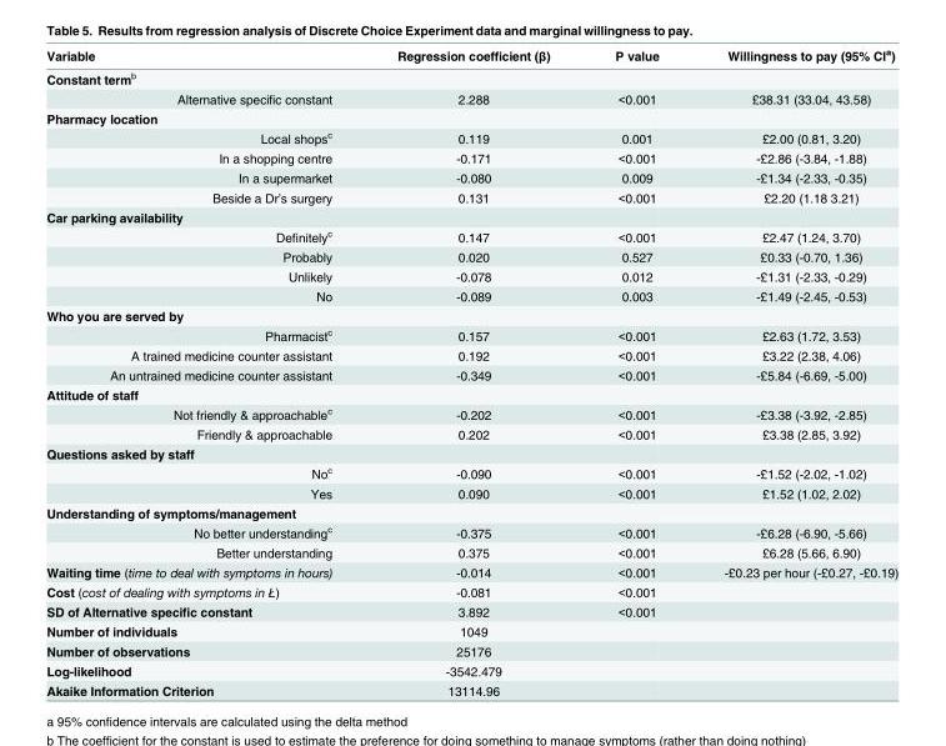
<table><thead><tr><td>Variable</td><td>Regression coefficient (β)</td><td>P value</td><td>Willingness to pay (95% CI<sup>a</sup>)</td></tr></thead><tbody><tr><td colspan="4">Constant term<sup>b</sup></td></tr><tr><td>Alternative specific constant</td><td>2.288</td><td>&lt;0.001</td><td>£38.31 (33.04, 43.58)</td></tr><tr><td colspan="4">Pharmacy location</td></tr><tr><td>Local shops<sup>c</sup></td><td>0.119</td><td>0.001</td><td>£2.00 (0.81, 3.20)</td></tr><tr><td>In a shopping centre</td><td>-0.171</td><td>&lt;0.001</td><td>-£2.86 (-3.84, -1.88)</td></tr><tr><td>In a supermarket</td><td>-0.080</td><td>0.009</td><td>-£1.34 (-2.33, -0.35)</td></tr><tr><td>Beside a Dr’s surgery</td><td>0.131</td><td>&lt;0.001</td><td>£2.20 (1.18 3.21)</td></tr><tr><td colspan="4">Car parking availability</td></tr><tr><td>Definitely<sup>c</sup></td><td>0.147</td><td>&lt;0.001</td><td>£2.47 (1.24, 3.70)</td></tr><tr><td>Probably</td><td>0.020</td><td>0.527</td><td>£0.33 (-0.70, 1.36)</td></tr><tr><td>Unlikely</td><td>-0.078</td><td>0.012</td><td>-£1.31 (-2.33, -0.29)</td></tr><tr><td>No</td><td>-0.089</td><td>0.003</td><td>-£1.49 (-2.45, -0.53)</td></tr><tr><td colspan="4">Who you are served by</td></tr><tr><td>Pharmacist<sup>c</sup></td><td>0.157</td><td>&lt;0.001</td><td>£2.63 (1.72, 3.53)</td></tr><tr><td>A trained medicine counter assistant</td><td>0.192</td><td>&lt;0.001</td><td>£3.22 (2.38, 4.06)</td></tr><tr><td>An untrained medicine counter assistant</td><td>-0.349</td><td>&lt;0.001</td><td>-£5.84 (-6.69, -5.00)</td></tr><tr><td colspan="4">Attitude of staff</td></tr><tr><td>Not friendly &amp; approachable<sup>c</sup></td><td>-0.202</td><td>&lt;0.001</td><td>-£3.38 (-3.92, -2.85)</td></tr><tr><td>Friendly &amp; approachable</td><td>0.202</td><td>&lt;0.001</td><td>£3.38 (2.85, 3.92)</td></tr><tr><td colspan="4">Questions asked by staff</td></tr><tr><td>No<sup>c</sup></td><td>-0.090</td><td>&lt;0.001</td><td>-£1.52 (-2.02, -1.02)</td></tr><tr><td>Yes</td><td>0.090</td><td>&lt;0.001</td><td>£1.52 (1.02, 2.02)</td></tr><tr><td colspan="4">Understanding of symptoms/management</td></tr><tr><td>No better understanding<sup>c</sup></td><td>-0.375</td><td>&lt;0.001</td><td>-£6.28 (-6.90, -5.66)</td></tr><tr><td>Better understanding</td><td>0.375</td><td>&lt;0.001</td><td>£6.28 (5.66, 6.90)</td></tr><tr><td>Waiting time (time to deal with symptoms in hours)</td><td>-0.014</td><td>&lt;0.001</td><td>-£0.23 per hour (-£0.27, -£0.19)</td></tr><tr><td>Cost (cost of dealing with symptoms in £)</td><td>-0.081</td><td>&lt;0.001</td><td></td></tr><tr><td>SD of Alternative specific constant</td><td>3.892</td><td>&lt;0.001</td><td></td></tr><tr><td>Number of individuals</td><td>1049</td><td></td><td></td></tr><tr><td>Number of observations</td><td>25176</td><td></td><td></td></tr><tr><td>Log-likelihood</td><td>-3542.479</td><td></td><td></td></tr><tr><td>Akaike Information Criterion</td><td>13114.96</td><td></td><td></td></tr></tbody></table>